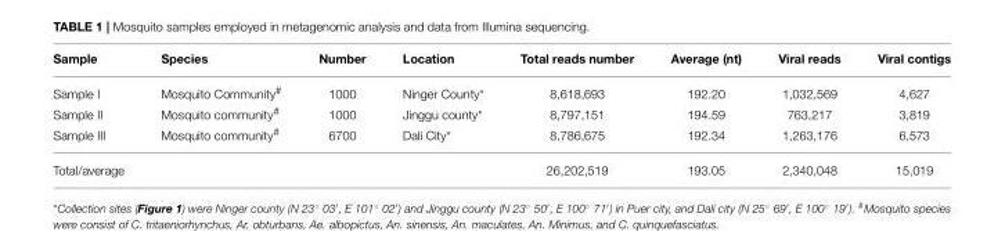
<table><thead><tr><td>Sample</td><td>Species</td><td>Number</td><td>Location</td><td>Total reads number</td><td>Average (nt)</td><td>Viral reads</td><td>Viral contigs</td></tr></thead><tbody><tr><td>Sample I</td><td>Mosquito Community<sup>#</sup></td><td>1000</td><td>Ninger County*</td><td>8,618,693</td><td>192.20</td><td>1,032,569</td><td>4,627</td></tr><tr><td>Sample II</td><td>Mosquito community<sup>#</sup></td><td>1000</td><td>Jinggu county*</td><td>8,797,151</td><td>194.59</td><td>763,217</td><td>3,819</td></tr><tr><td>Sample III</td><td>Mosquito community<sup>#</sup></td><td>6700</td><td>Dali City*</td><td>8,786,675</td><td>192.34</td><td>1,263,176</td><td>6,573</td></tr><tr><td>Total/average</td><td></td><td></td><td></td><td>26,202,519</td><td>193.05</td><td>2,340,048</td><td>15,019</td></tr></tbody></table>